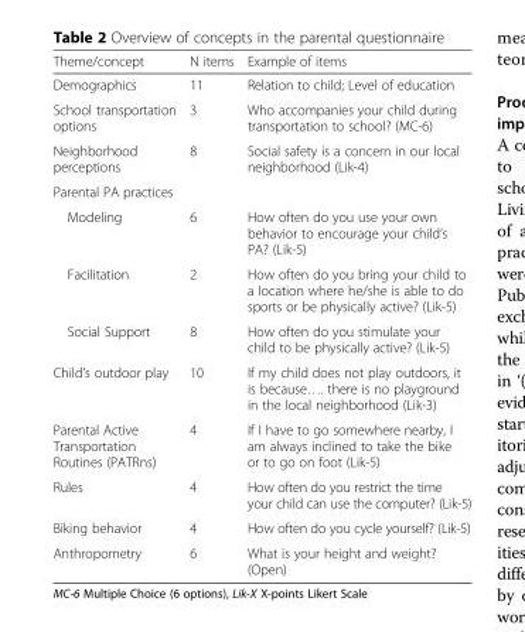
<table><thead><tr><td>Theme/concept</td><td>N items</td><td>Example of items</td></tr></thead><tbody><tr><td>Demographics</td><td>11</td><td>Relation to child; Level of education</td></tr><tr><td>School transportation options</td><td>3</td><td>Who accompanies your child during transportation to school? (MC-6)</td></tr><tr><td>Neighborhood perceptions</td><td>8</td><td>Social safety is a concern in our local neighborhood (Lik-4)</td></tr><tr><td colspan="3">Parental PA practices</td></tr><tr><td>Modeling</td><td>6</td><td>How often do you use your own behavior to encourage your child’s PA? (Lik-5)</td></tr><tr><td>Facilitation</td><td>2</td><td>How often do you bring your child to a location where he/she is able to do sports or be physically active? (Lik-5)</td></tr><tr><td>Social Support</td><td>8</td><td>How often do you stimulate your child to be physically active? (Lik-5)</td></tr><tr><td>Child’s outdoor play</td><td>10</td><td>If my child does not play outdoors, it is because…. there is no playground in the local neighborhood (Lik-3)</td></tr><tr><td>Parental Active Transportation Routines (PATRns)</td><td>4</td><td>If I have to go somewhere nearby, I am always inclined to take the bike or to go on foot (Lik-5)</td></tr><tr><td>Rules</td><td>4</td><td>How often do you restrict the time your child can use the computer? (Lik-5)</td></tr><tr><td>Biking behavior</td><td>4</td><td>How often do you cycle yourself? (Lik-5)</td></tr><tr><td>Anthropometry</td><td>6</td><td>What is your height and weight? (Open)</td></tr></tbody></table>